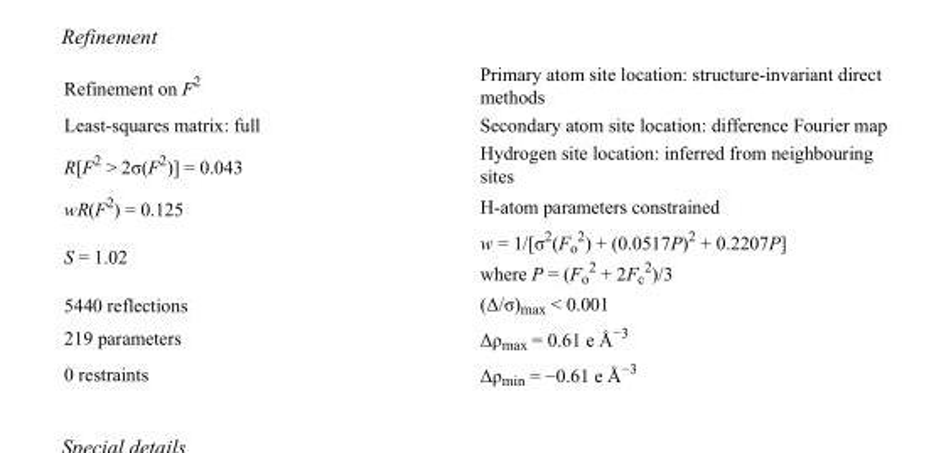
<table><tbody><tr><td>Refinement on F<sup>2</sup></td><td>Primary atom site location: structure-invariant direct methods</td></tr><tr><td>Least-squares matrix: full</td><td>Secondary atom site location: difference Fourier map</td></tr><tr><td>R[F<sup>2</sup> &gt; 2σ(F<sup>2</sup>)] = 0.043</td><td>Hydrogen site location: inferred from neighbouring sites</td></tr><tr><td>wR(F<sup>2</sup>) = 0.125</td><td>H-atom parameters constrained</td></tr><tr><td>S = 1.02</td><td>w = 1/[σ<sup>2</sup>(F<sub>o</sub> <sup>2</sup>) + (0.0517P)<sup>2</sup> + 0.2207P] where P = (F<sub>o</sub> <sup>2</sup> + 2F<sub>c</sub> <sup>2</sup>)/3</td></tr><tr><td>5440 reflections</td><td>(Δ/σ)<sub>max</sub> &lt; 0.001</td></tr><tr><td>219 parameters</td><td>Δρ<sub>max</sub> = 0.61 e Å<sup>−3</sup></td></tr><tr><td>0 restraints</td><td>Δρ<sub>min</sub> = −0.61 e Å<sup>−3</sup></td></tr></tbody></table>